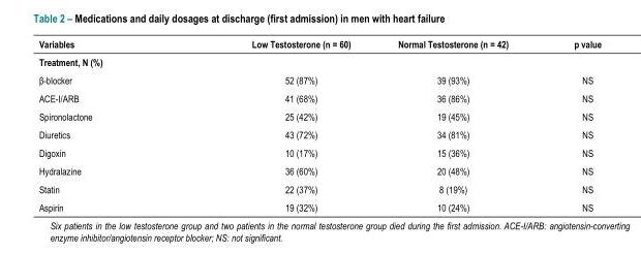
<table><thead><tr><td>Variables</td><td>Low Testosterone (n = 60)</td><td>Normal Testosterone (n = 42)</td><td>p value</td></tr></thead><tbody><tr><td colspan="4">Treatment, N (%)</td></tr><tr><td>β-blocker</td><td>52 (87%)</td><td>39 (93%)</td><td>NS</td></tr><tr><td>ACE-I/ARB</td><td>41 (68%)</td><td>36 (86%)</td><td>NS</td></tr><tr><td>Spironolactone</td><td>25 (42%)</td><td>19 (45%)</td><td>NS</td></tr><tr><td>Diuretics</td><td>43 (72%)</td><td>34 (81%)</td><td>NS</td></tr><tr><td>Digoxin</td><td>10 (17%)</td><td>15 (36%)</td><td>NS</td></tr><tr><td>Hydralazine</td><td>36 (60%)</td><td>20 (48%)</td><td>NS</td></tr><tr><td>Statin</td><td>22 (37%)</td><td>8 (19%)</td><td>NS</td></tr><tr><td>Aspirin</td><td>19 (32%)</td><td>10 (24%)</td><td>NS</td></tr></tbody></table>